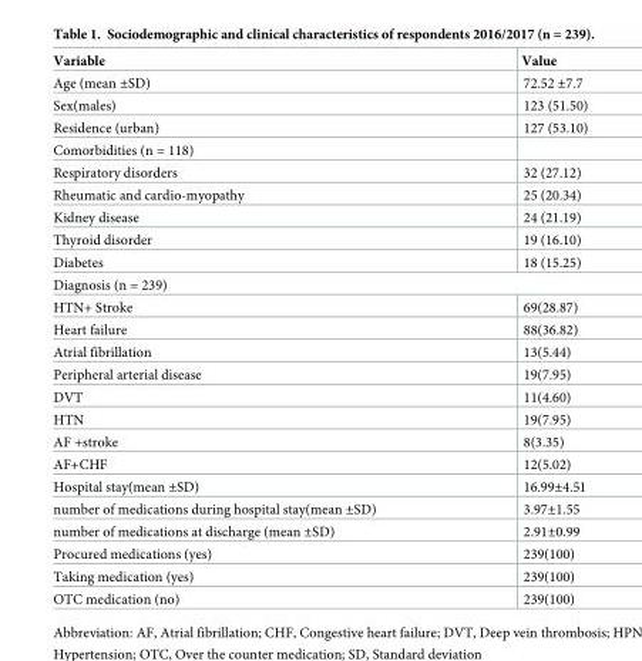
<table><thead><tr><td>Variable</td><td>Value</td></tr></thead><tbody><tr><td>Age (mean ±SD)</td><td>72.52 ±7.7</td></tr><tr><td>Sex(males)</td><td>123 (51.50)</td></tr><tr><td>Residence (urban)</td><td>127 (53.10)</td></tr><tr><td colspan="2">Comorbidities (n = 118)</td></tr><tr><td>Respiratory disorders</td><td>32 (27.12)</td></tr><tr><td>Rheumatic and cardio-myopathy</td><td>25 (20.34)</td></tr><tr><td>Kidney disease</td><td>24 (21.19)</td></tr><tr><td>Thyroid disorder</td><td>19 (16.10)</td></tr><tr><td>Diabetes</td><td>18 (15.25)</td></tr><tr><td colspan="2">Diagnosis (n = 239)</td></tr><tr><td>HTN+ Stroke</td><td>69(28.87)</td></tr><tr><td>Heart failure</td><td>88(36.82)</td></tr><tr><td>Atrial fibrillation</td><td>13(5.44)</td></tr><tr><td>Peripheral arterial disease</td><td>19(7.95)</td></tr><tr><td>DVT</td><td>11(4.60)</td></tr><tr><td>HTN</td><td>19(7.95)</td></tr><tr><td>AF +stroke</td><td>8(3.35)</td></tr><tr><td>AF+CHF</td><td>12(5.02)</td></tr><tr><td>Hospital stay(mean ±SD)</td><td>16.99±4.51</td></tr><tr><td>number of medications during hospital stay(mean ±SD)</td><td>3.97±1.55</td></tr><tr><td>number of medications at discharge (mean ±SD)</td><td>2.91±0.99</td></tr><tr><td>Procured medications (yes)</td><td>239(100)</td></tr><tr><td>Taking medication (yes)</td><td>239(100)</td></tr><tr><td>OTC medication (no)</td><td>239(100)</td></tr></tbody></table>